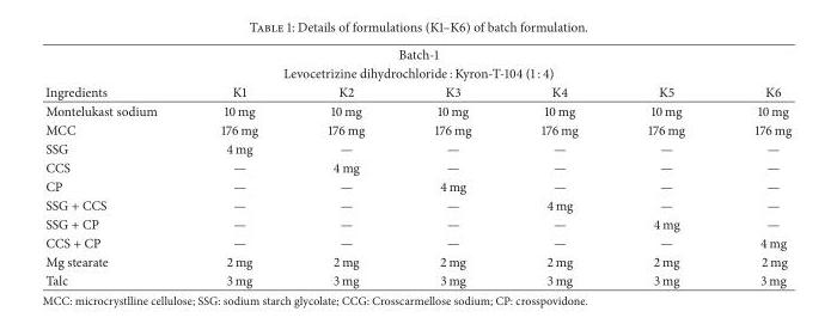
<table><thead><tr><td rowspan="2" colspan="7">Batch-1 Levocetrizine dihydrochloride : Kyron-T-104 (1 : 4)</td></tr><tr></tr><tr><td>Ingredients</td><td>K1</td><td>K2</td><td>K3</td><td>K4</td><td>K5</td><td>K6</td></tr></thead><tbody><tr><td>Montelukast sodium</td><td>10 mg</td><td>10 mg</td><td>10 mg</td><td>10 mg</td><td>10 mg</td><td>10 mg</td></tr><tr><td>MCC</td><td>176 mg</td><td>176 mg</td><td>176 mg</td><td>176 mg</td><td>176 mg</td><td>176 mg</td></tr><tr><td>SSG</td><td>4 mg</td><td>—</td><td>—</td><td>—</td><td>—</td><td>—</td></tr><tr><td>CCS</td><td>—</td><td>4 mg</td><td>—</td><td>—</td><td>—</td><td>—</td></tr><tr><td>CP</td><td>—</td><td>—</td><td>4 mg</td><td>—</td><td>—</td><td>—</td></tr><tr><td>SSG + CCS</td><td>—</td><td>—</td><td>—</td><td>4 mg</td><td>—</td><td>—</td></tr><tr><td>SSG + CP</td><td>—</td><td>—</td><td>—</td><td>—</td><td>4 mg</td><td>—</td></tr><tr><td>CCS + CP</td><td>—</td><td>—</td><td>—</td><td>—</td><td>—</td><td>4 mg</td></tr><tr><td>Mg stearate</td><td>2 mg</td><td>2 mg</td><td>2 mg</td><td>2 mg</td><td>2 mg</td><td>2 mg</td></tr><tr><td>Talc</td><td>3 mg</td><td>3 mg</td><td>3 mg</td><td>3 mg</td><td>3 mg</td><td>3 mg</td></tr></tbody></table>